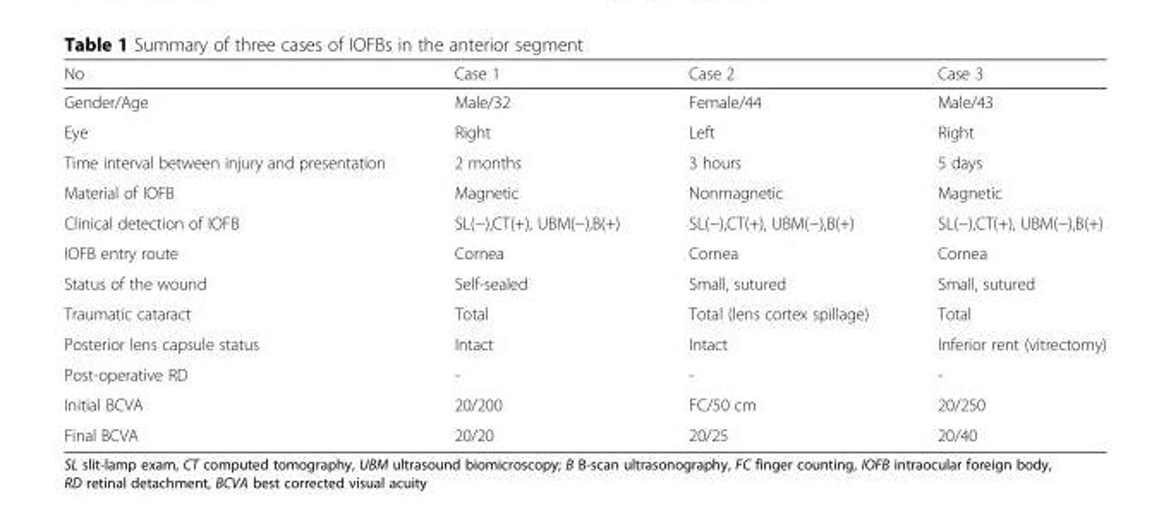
<table><thead><tr><td>No</td><td>Case 1</td><td>Case 2</td><td>Case 3</td></tr></thead><tbody><tr><td>Gender/Age</td><td>Male/32</td><td>Female/44</td><td>Male/43</td></tr><tr><td>Eye</td><td>Right</td><td>Left</td><td>Right</td></tr><tr><td>Time interval between injury and presentation</td><td>2 months</td><td>3 hours</td><td>5 days</td></tr><tr><td>Material of IOFB</td><td>Magnetic</td><td>Nonmagnetic</td><td>Magnetic</td></tr><tr><td>Clinical detection of IOFB</td><td>SL(−),CT(+), UBM(−),B(+)</td><td>SL(−),CT(+), UBM(−),B(+)</td><td>SL(−),CT(+), UBM(−),B(+)</td></tr><tr><td>IOFB entry route</td><td>Cornea</td><td>Cornea</td><td>Cornea</td></tr><tr><td>Status of the wound</td><td>Self-sealed</td><td>Small, sutured</td><td>Small, sutured</td></tr><tr><td>Traumatic cataract</td><td>Total</td><td>Total (lens cortex spillage)</td><td>Total</td></tr><tr><td>Posterior lens capsule status</td><td>Intact</td><td>Intact</td><td>Inferior rent (vitrectomy)</td></tr><tr><td>Post-operative RD</td><td>-</td><td>-</td><td>-</td></tr><tr><td>Initial BCVA</td><td>20/200</td><td>FC/50 cm</td><td>20/250</td></tr><tr><td>Final BCVA</td><td>20/20</td><td>20/25</td><td>20/40</td></tr></tbody></table>